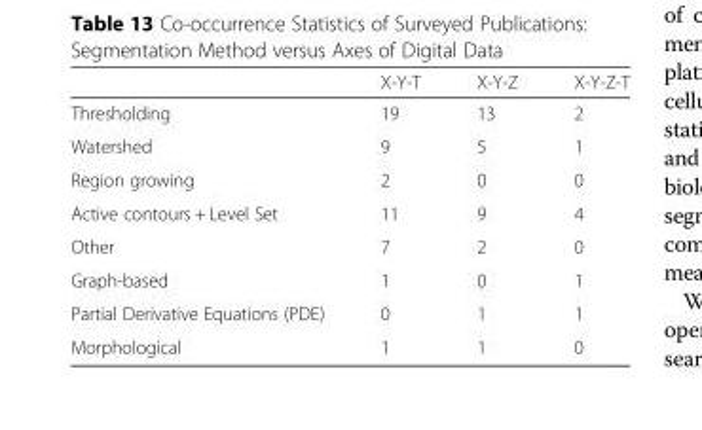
<table><thead><tr><td></td><td>X-Y-T</td><td>X-Y-Z</td><td>X-Y-Z-T</td></tr></thead><tbody><tr><td>Thresholding</td><td>19</td><td>13</td><td>2</td></tr><tr><td>Watershed</td><td>9</td><td>5</td><td>1</td></tr><tr><td>Region growing</td><td>2</td><td>0</td><td>0</td></tr><tr><td>Active contours + Level Set</td><td>11</td><td>9</td><td>4</td></tr><tr><td>Other</td><td>7</td><td>2</td><td>0</td></tr><tr><td>Graph-based</td><td>1</td><td>0</td><td>1</td></tr><tr><td>Partial Derivative Equations (PDE)</td><td>0</td><td>1</td><td>1</td></tr><tr><td>Morphological</td><td>1</td><td>1</td><td>0</td></tr></tbody></table>